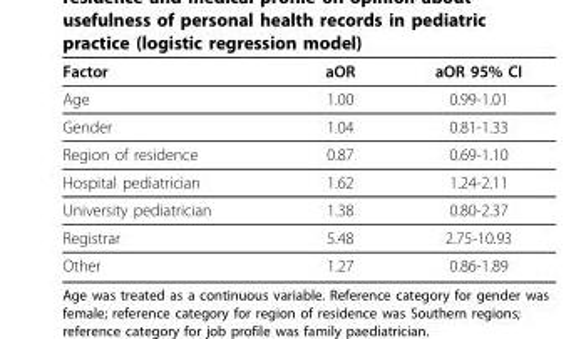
<table><thead><tr><td>Factor</td><td>aOR</td><td>aOR 95% CI</td></tr></thead><tbody><tr><td>Age</td><td>1.00</td><td>0.99-1.01</td></tr><tr><td>Gender</td><td>1.04</td><td>0.81-1.33</td></tr><tr><td>Region of residence</td><td>0.87</td><td>0.69-1.10</td></tr><tr><td>Hospital pediatrician</td><td>1.62</td><td>1.24-2.11</td></tr><tr><td>University pediatrician</td><td>1.38</td><td>0.80-2.37</td></tr><tr><td>Registrar</td><td>5.48</td><td>2.75-10.93</td></tr><tr><td>Other</td><td>1.27</td><td>0.86-1.89</td></tr></tbody></table>